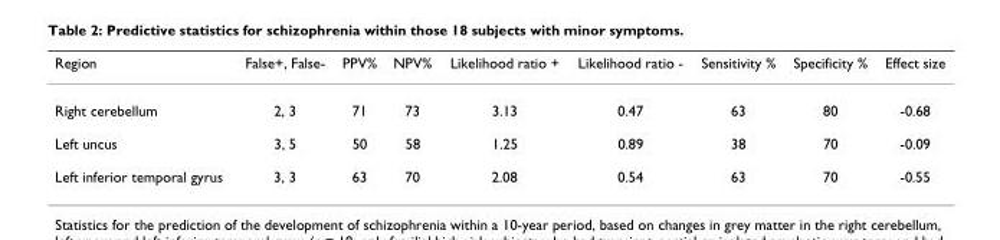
<table><thead><tr><td>Region</td><td>False+, False-</td><td>PPV%</td><td>NPV%</td><td>Likelihood ratio +</td><td>Likelihood ratio -</td><td>Sensitivity %</td><td>Specificity %</td><td>Effect size</td></tr></thead><tbody><tr><td>Right cerebellum</td><td>2, 3</td><td>71</td><td>73</td><td>3.13</td><td>0.47</td><td>63</td><td>80</td><td>-0.68</td></tr><tr><td>Left uncus</td><td>3, 5</td><td>50</td><td>58</td><td>1.25</td><td>0.89</td><td>38</td><td>70</td><td>-0.09</td></tr><tr><td>Left inferior temporal gyrus</td><td>3, 3</td><td>63</td><td>70</td><td>2.08</td><td>0.54</td><td>63</td><td>70</td><td>-0.55</td></tr></tbody></table>